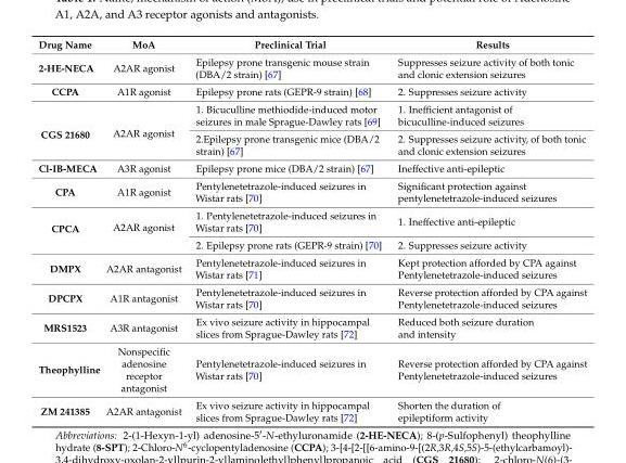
<table><thead><tr><td>Drug Name</td><td>MoA</td><td>Preclinical Trial</td><td>Results</td></tr></thead><tbody><tr><td>2-HE-NECA</td><td>A2AR agonist</td><td>Epilepsy prone transgenic mouse strain (DBA/2 strain) [67]</td><td>Suppresses seizure activity of both tonic and clonic extension seizures</td></tr><tr><td>CCPA</td><td>A1R agonist</td><td>Epilepsy prone rats (GEPR-9 strain) [68]</td><td>2. Suppresses seizure activity</td></tr><tr><td rowspan="2">CGS 21680</td><td rowspan="2">A2AR agonist</td><td>1. Bicuculline methiodide-induced motor seizures in male Sprague-Dawley rats [69]</td><td>1. Inefficient antagonist of bicuculline-induced seizures</td></tr><tr><td>2.Epilepsy prone transgenic mice (DBA/2 strain) [67]</td><td>2. Suppresses seizure activity, of both tonic and clonic extension seizures</td></tr><tr><td>Cl-IB-MECA</td><td>A3R agonist</td><td>Epilepsy prone mice (DBA/2 strain) [67]</td><td>Ineffective anti-epileptic</td></tr><tr><td>CPA</td><td>A1R agonist</td><td>Pentylenetetrazole-induced seizures in Wistar rats [70]</td><td>Significant protection against pentylenetetrazole-induced seizures</td></tr><tr><td rowspan="2">CPCA</td><td rowspan="2">A2AR agonist</td><td>1. Pentylenetetrazole-induced seizures in Wistar rats [70]</td><td>1. Ineffective anti-epileptic</td></tr><tr><td>2. Epilepsy prone rats (GEPR-9 strain) [70]</td><td>2. Suppresses seizure activity</td></tr><tr><td>DMPX</td><td>A2AR antagonist</td><td>Pentylenetetrazole-induced seizures in Wistar rats [71]</td><td>Kept protection afforded by CPA against Pentylenetetrazole-induced seizures</td></tr><tr><td>DPCPX</td><td>A1R antagonist</td><td>Pentylenetetrazole-induced seizures in Wistar rats [70]</td><td>Reverse protection afforded by CPA against Pentylenetetrazole-induced seizures</td></tr><tr><td>MRS1523</td><td>A3R antagonist</td><td>Ex vivo seizure activity in hippocampal slices from Sprague-Dawley rats [72]</td><td>Reduced both seizure duration and intensity</td></tr><tr><td>Theophylline</td><td>Nonspecific adenosine receptor antagonist</td><td>Pentylenetetrazole-induced seizures in Wistar rats [70]</td><td>Reverse protection afforded by CPA against Pentylenetetrazole-induced seizures</td></tr><tr><td>ZM 241385</td><td>A2AR antagonist</td><td>Ex vivo seizure activity in hippocampal slices from Sprague-Dawley rats [72]</td><td>Shorten the duration of epileptiform activity</td></tr></tbody></table>